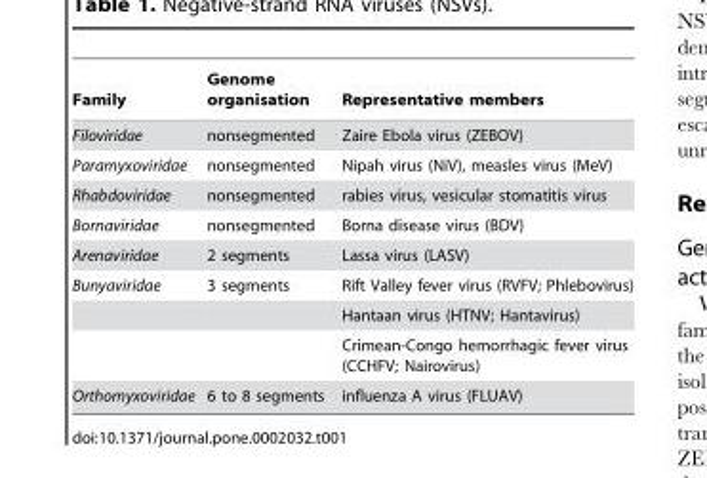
<table><thead><tr><td>Family</td><td>Genome organisation</td><td>Representative members</td></tr></thead><tbody><tr><td>Filoviridae</td><td>nonsegmented</td><td>Zaire Ebola virus (ZEBOV)</td></tr><tr><td>Paramyxoviridae</td><td>nonsegmented</td><td>Nipah virus (NiV), measles virus (MeV)</td></tr><tr><td>Rhabdoviridae</td><td>nonsegmented</td><td>rabies virus, vesicular stomatitis virus</td></tr><tr><td>Bornaviridae</td><td>nonsegmented</td><td>Borna disease virus (BDV)</td></tr><tr><td>Arenaviridae</td><td>2 segments</td><td>Lassa virus (LASV)</td></tr><tr><td rowspan="3">Bunyaviridae</td><td>3 segments</td><td>Rift Valley fever virus (RVFV; Phlebovirus)</td></tr><tr><td></td><td>Hantaan virus (HTNV; Hantavirus)</td></tr><tr><td></td><td>Crimean-Congo hemorrhagic fever virus (CCHFV; Nairovirus)</td></tr><tr><td>Orthomyxoviridae</td><td>6 to 8 segments</td><td>influenza A virus (FLUAV)</td></tr></tbody></table>